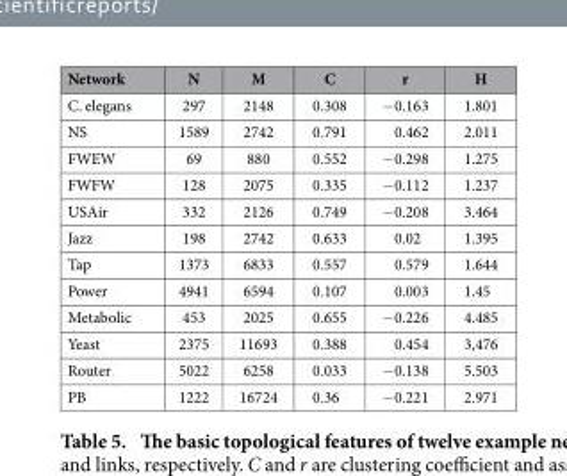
<table><thead><tr><td>Network</td><td>N</td><td>M</td><td>C</td><td>r</td><td>H</td></tr></thead><tbody><tr><td>C. elegans</td><td>297</td><td>2148</td><td>0.308</td><td>− 0.163</td><td>1.801</td></tr><tr><td>NS</td><td>1589</td><td>2742</td><td>0.791</td><td>0.462</td><td>2.011</td></tr><tr><td>FWEW</td><td>69</td><td>880</td><td>0.552</td><td>− 0.298</td><td>1.275</td></tr><tr><td>FWFW</td><td>128</td><td>2075</td><td>0.335</td><td>− 0.112</td><td>1.237</td></tr><tr><td>USAir</td><td>332</td><td>2126</td><td>0.749</td><td>− 0.208</td><td>3.464</td></tr><tr><td>Jazz</td><td>198</td><td>2742</td><td>0.633</td><td>0.02</td><td>1.395</td></tr><tr><td>Tap</td><td>1373</td><td>6833</td><td>0.557</td><td>0.579</td><td>1.644</td></tr><tr><td>Power</td><td>4941</td><td>6594</td><td>0.107</td><td>0.003</td><td>1.45</td></tr><tr><td>Metabolic</td><td>453</td><td>2025</td><td>0.655</td><td>− 0.226</td><td>4.485</td></tr><tr><td>Yeast</td><td>2375</td><td>11693</td><td>0.388</td><td>0.454</td><td>3,476</td></tr><tr><td>Router</td><td>5022</td><td>6258</td><td>0.033</td><td>− 0.138</td><td>5.503</td></tr><tr><td>PB</td><td>1222</td><td>16724</td><td>0.36</td><td>− 0.221</td><td>2.971</td></tr></tbody></table>